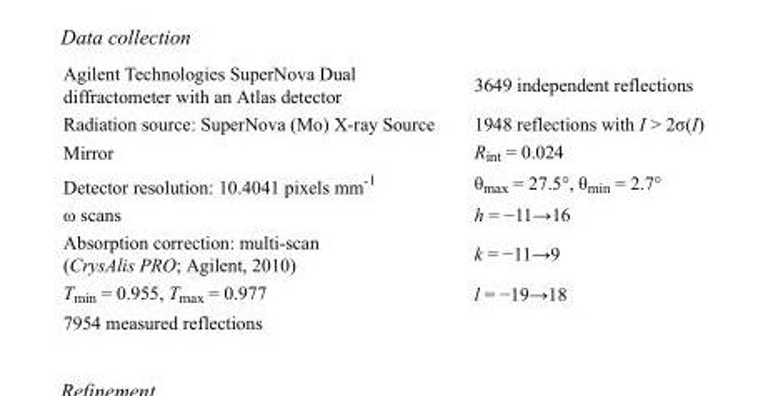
<table><tbody><tr><td>Agilent Technologies SuperNova Dual diffractometer with an Atlas detector</td><td>3649 independent reflections</td></tr><tr><td>Radiation source: SuperNova (Mo) X-ray Source</td><td>1948 reflections with I &gt; 2σ(I)</td></tr><tr><td>Mirror</td><td>R<sub>int</sub> = 0.024</td></tr><tr><td>Detector resolution: 10.4041 pixels mm<sup>-1</sup></td><td>θ<sub>max</sub> = 27.5°, θ<sub>min</sub> = 2.7°</td></tr><tr><td>ω scans</td><td>h = −11→16</td></tr><tr><td>Absorption correction: multi-scan (CrysAlis PRO; Agilent, 2010)</td><td>k = −11→9</td></tr><tr><td>T<sub>min</sub> = 0.955, T<sub>max</sub> = 0.977</td><td>l = −19→18</td></tr><tr><td>7954 measured reflections</td><td></td></tr></tbody></table>